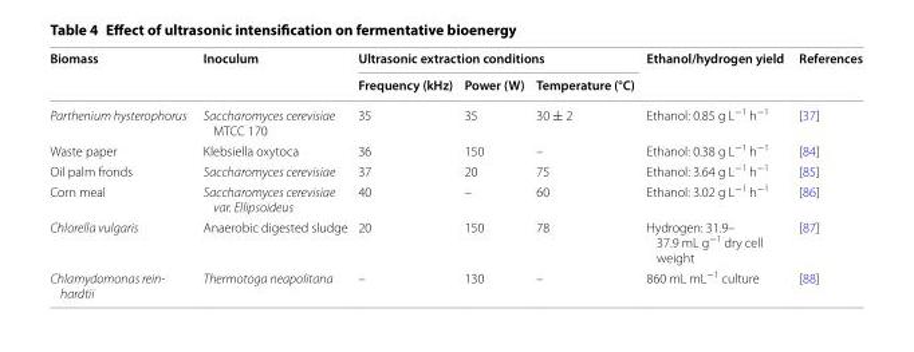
<table><thead><tr><td rowspan="2">Biomass</td><td rowspan="2">Inoculum</td><td colspan="3">Ultrasonic extraction conditions</td><td rowspan="2">Ethanol/hydrogen yield</td><td rowspan="2">References</td></tr><tr><td>Frequency (kHz)</td><td>Power (W)</td><td>Temperature (°C)</td></tr></thead><tbody><tr><td>Parthenium hysterophorus</td><td>Saccharomyces cerevisiae MTCC 170</td><td>35</td><td>35</td><td>30 ± 2</td><td>Ethanol: 0.85 g L<sup>−1</sup> h<sup>−1</sup></td><td>[37]</td></tr><tr><td>Waste paper</td><td>Klebsiella oxytoca</td><td>36</td><td>150</td><td>–</td><td>Ethanol: 0.38 g L<sup>−1</sup> h<sup>−1</sup></td><td>[84]</td></tr><tr><td>Oil palm fronds</td><td>Saccharomyces cerevisiae</td><td>37</td><td>20</td><td>75</td><td>Ethanol: 3.64 g L<sup>−1</sup> h<sup>−1</sup></td><td>[85]</td></tr><tr><td>Corn meal</td><td>Saccharomyces cerevisiae var. Ellipsoideus</td><td>40</td><td>–</td><td>60</td><td>Ethanol: 3.02 g L<sup>−1</sup> h<sup>−1</sup></td><td>[86]</td></tr><tr><td>Chlorella vulgaris</td><td>Anaerobic digested sludge</td><td>20</td><td>150</td><td>78</td><td>Hydrogen: 31.9– 37.9 mL g<sup>−1</sup> dry cell weight</td><td>[87]</td></tr><tr><td>Chlamydomonas rein- hardtii</td><td>Thermotoga neapolitana</td><td>–</td><td>130</td><td>–</td><td>860 mL mL<sup>−1</sup> culture</td><td>[88]</td></tr></tbody></table>